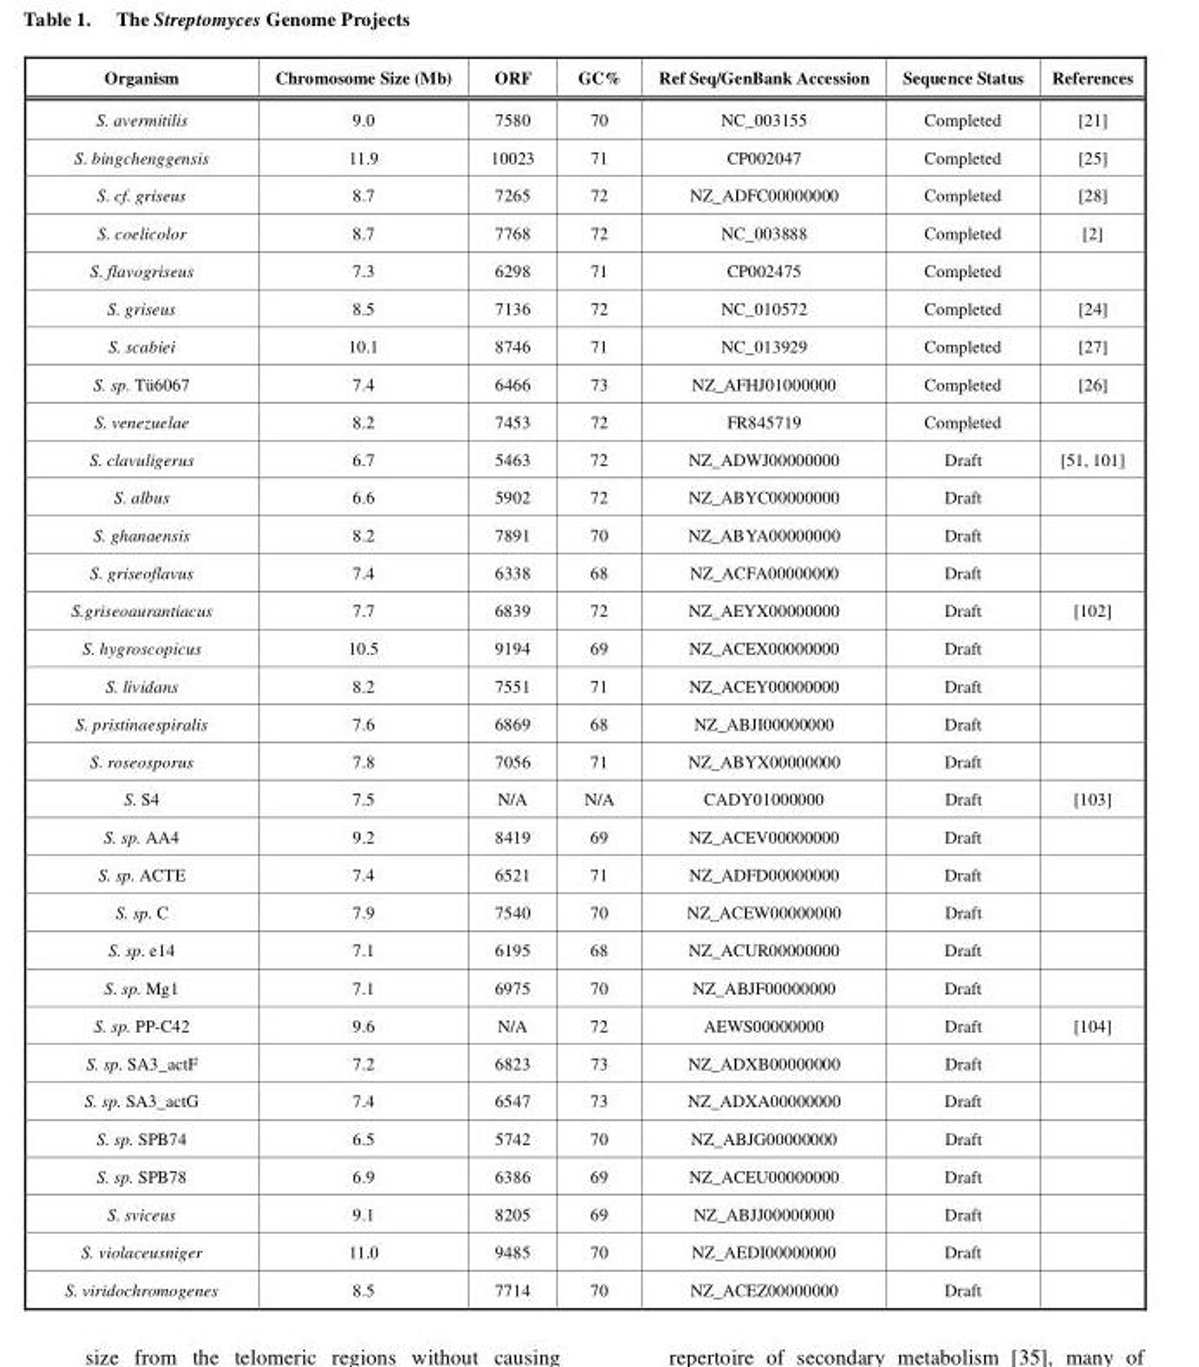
<table><thead><tr><td>Organism</td><td>Chromosome Size (Mb)</td><td>ORF</td><td>GC%</td><td>Ref Seq/GenBank Accession</td><td>Sequence Status</td><td>References</td></tr></thead><tbody><tr><td>S. avermitilis</td><td>9.0</td><td>7580</td><td>70</td><td>NC_003155</td><td>Completed</td><td>[21]</td></tr><tr><td>S. bingchenggensis</td><td>11.9</td><td>10023</td><td>71</td><td>CP002047</td><td>Completed</td><td>[25]</td></tr><tr><td>S. cf. griseus</td><td>8.7</td><td>7265</td><td>72</td><td>NZ_ADFC00000000</td><td>Completed</td><td>[28]</td></tr><tr><td>S. coelicolor</td><td>8.7</td><td>7768</td><td>72</td><td>NC_003888</td><td>Completed</td><td>[2]</td></tr><tr><td>S. flavogriseus</td><td>7.3</td><td>6298</td><td>71</td><td>CP002475</td><td>Completed</td><td></td></tr><tr><td>S. griseus</td><td>8.5</td><td>7136</td><td>72</td><td>NC_010572</td><td>Completed</td><td>[24]</td></tr><tr><td>S. scabiei</td><td>10.1</td><td>8746</td><td>71</td><td>NC_013929</td><td>Completed</td><td>[27]</td></tr><tr><td>S. sp. Tü6067</td><td>7.4</td><td>6466</td><td>73</td><td>NZ_AFHJ01000000</td><td>Completed</td><td>[26]</td></tr><tr><td>S. venezuelae</td><td>8.2</td><td>7453</td><td>72</td><td>FR845719</td><td>Completed</td><td></td></tr><tr><td>S. clavuligerus</td><td>6.7</td><td>5463</td><td>72</td><td>NZ_ADWJ00000000</td><td>Draft</td><td>[51, 101]</td></tr><tr><td>S. albus</td><td>6.6</td><td>5902</td><td>72</td><td>NZ_ABYC00000000</td><td>Draft</td><td></td></tr><tr><td>S. ghanaensis</td><td>8.2</td><td>7891</td><td>70</td><td>NZ_ABYA00000000</td><td>Draft</td><td></td></tr><tr><td>S. griseoflavus</td><td>7.4</td><td>6338</td><td>68</td><td>NZ_ACFA00000000</td><td>Draft</td><td></td></tr><tr><td>S.griseoaurantiacus</td><td>7.7</td><td>6839</td><td>72</td><td>NZ_AEYX00000000</td><td>Draft</td><td>[102]</td></tr><tr><td>S. hygroscopicus</td><td>10.5</td><td>9194</td><td>69</td><td>NZ_ACEX00000000</td><td>Draft</td><td></td></tr><tr><td>S. lividans</td><td>8.2</td><td>7551</td><td>71</td><td>NZ_ACEY00000000</td><td>Draft</td><td></td></tr><tr><td>S. pristinaespiralis</td><td>7.6</td><td>6869</td><td>68</td><td>NZ_ABJI00000000</td><td>Draft</td><td></td></tr><tr><td>S. roseosporus</td><td>7.8</td><td>7056</td><td>71</td><td>NZ_ABYX00000000</td><td>Draft</td><td></td></tr><tr><td>S. S4</td><td>7.5</td><td>N/A</td><td>N/A</td><td>CADY01000000</td><td>Draft</td><td>[103]</td></tr><tr><td>S. sp. AA4</td><td>9.2</td><td>8419</td><td>69</td><td>NZ_ACEV00000000</td><td>Draft</td><td></td></tr><tr><td>S. sp. ACTE</td><td>7.4</td><td>6521</td><td>71</td><td>NZ_ADFD00000000</td><td>Draft</td><td></td></tr><tr><td>S. sp. C</td><td>7.9</td><td>7540</td><td>70</td><td>NZ_ACEW00000000</td><td>Draft</td><td></td></tr><tr><td>S. sp. e14</td><td>7.1</td><td>6195</td><td>68</td><td>NZ_ACUR00000000</td><td>Draft</td><td></td></tr><tr><td>S. sp. Mg1</td><td>7.1</td><td>6975</td><td>70</td><td>NZ_ABJF00000000</td><td>Draft</td><td></td></tr><tr><td>S. sp. PP-C42</td><td>9.6</td><td>N/A</td><td>72</td><td>AEWS00000000</td><td>Draft</td><td>[104]</td></tr><tr><td>S. sp. SA3_actF</td><td>7.2</td><td>6823</td><td>73</td><td>NZ_ADXB00000000</td><td>Draft</td><td></td></tr><tr><td>S. sp. SA3_actG</td><td>7.4</td><td>6547</td><td>73</td><td>NZ_ADXA00000000</td><td>Draft</td><td></td></tr><tr><td>S. sp. SPB74</td><td>6.5</td><td>5742</td><td>70</td><td>NZ_ABJG00000000</td><td>Draft</td><td></td></tr><tr><td>S. sp. SPB78</td><td>6.9</td><td>6386</td><td>69</td><td>NZ_ACEU00000000</td><td>Draft</td><td></td></tr><tr><td>S. sviceus</td><td>9.1</td><td>8205</td><td>69</td><td>NZ_ABJJ00000000</td><td>Draft</td><td></td></tr><tr><td>S. violaceusniger</td><td>11.0</td><td>9485</td><td>70</td><td>NZ_AEDI00000000</td><td>Draft</td><td></td></tr><tr><td>S. viridochromogenes</td><td>8.5</td><td>7714</td><td>70</td><td>NZ_ACEZ00000000</td><td>Draft</td><td></td></tr></tbody></table>